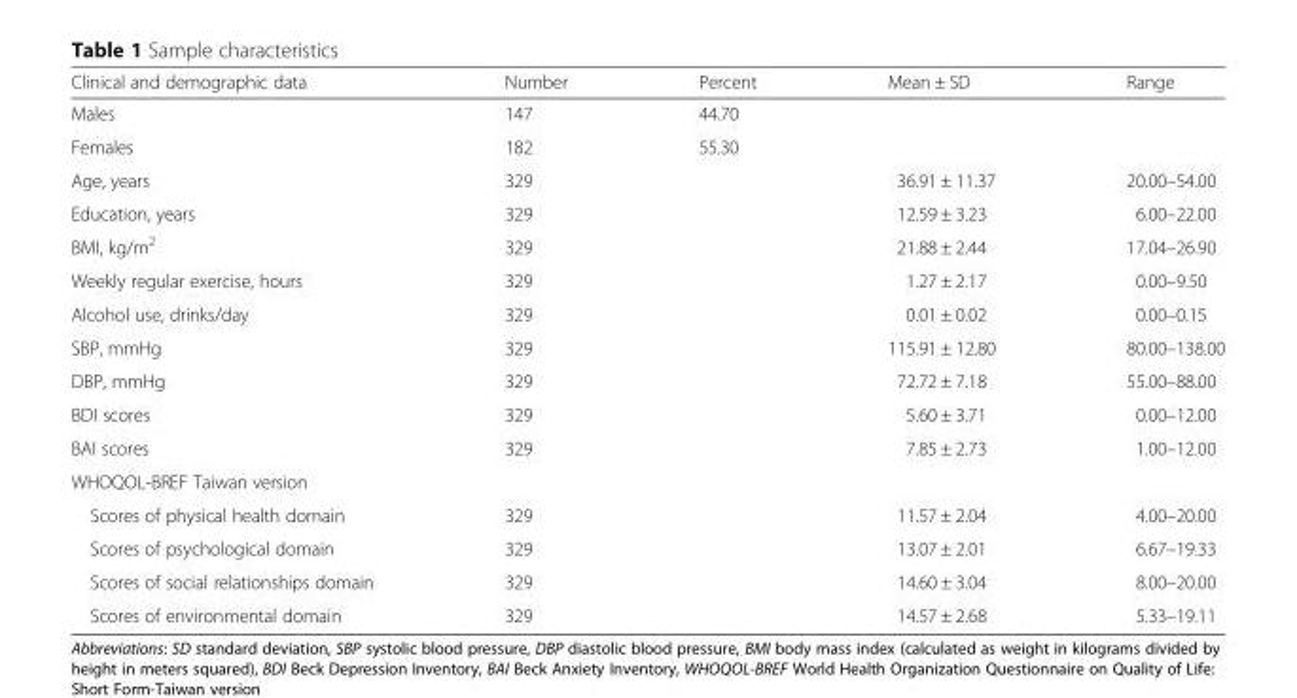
<table><thead><tr><td>Clinical and demographic data</td><td>Number</td><td>Percent</td><td>Mean ± SD</td><td>Range</td></tr></thead><tbody><tr><td>Males</td><td>147</td><td>44.70</td><td></td><td></td></tr><tr><td>Females</td><td>182</td><td>55.30</td><td></td><td></td></tr><tr><td>Age, years</td><td>329</td><td></td><td>36.91 ± 11.37</td><td>20.00–54.00</td></tr><tr><td>Education, years</td><td>329</td><td></td><td>12.59 ± 3.23</td><td>6.00–22.00</td></tr><tr><td>BMI, kg/m<sup>2</sup></td><td>329</td><td></td><td>21.88 ± 2.44</td><td>17.04–26.90</td></tr><tr><td>Weekly regular exercise, hours</td><td>329</td><td></td><td>1.27 ± 2.17</td><td>0.00–9.50</td></tr><tr><td>Alcohol use, drinks/day</td><td>329</td><td></td><td>0.01 ± 0.02</td><td>0.00–0.15</td></tr><tr><td>SBP, mmHg</td><td>329</td><td></td><td>115.91 ± 12.80</td><td>80.00–138.00</td></tr><tr><td>DBP, mmHg</td><td>329</td><td></td><td>72.72 ± 7.18</td><td>55.00–88.00</td></tr><tr><td>BDI scores</td><td>329</td><td></td><td>5.60 ± 3.71</td><td>0.00–12.00</td></tr><tr><td>BAI scores</td><td>329</td><td></td><td>7.85 ± 2.73</td><td>1.00–12.00</td></tr><tr><td colspan="5">WHOQOL-BREF Taiwan version</td></tr><tr><td>Scores of physical health domain</td><td>329</td><td></td><td>11.57 ± 2.04</td><td>4.00–20.00</td></tr><tr><td>Scores of psychological domain</td><td>329</td><td></td><td>13.07 ± 2.01</td><td>6.67–19.33</td></tr><tr><td>Scores of social relationships domain</td><td>329</td><td></td><td>14.60 ± 3.04</td><td>8.00–20.00</td></tr><tr><td>Scores of environmental domain</td><td>329</td><td></td><td>14.57 ± 2.68</td><td>5.33–19.11</td></tr></tbody></table>